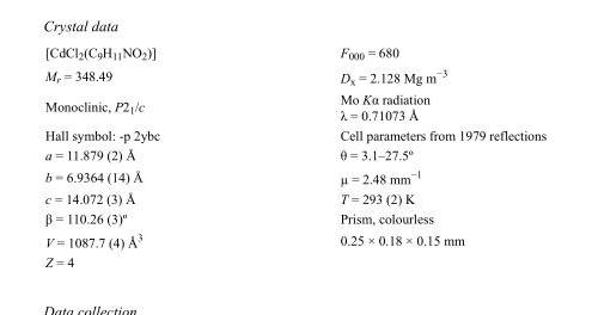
<table><tbody><tr><td>[CdCl<sub>2</sub>(C<sub>9</sub>H<sub>11</sub>NO<sub>2</sub>)]</td><td>F<sub>000</sub> = 680</td></tr><tr><td>M<sub>r</sub> = 348.49</td><td>D<sub>x</sub> = 2.128 Mg m<sup>−3</sup></td></tr><tr><td>Monoclinic, P2<sub>1</sub>/c</td><td>Mo Kα radiation λ = 0.71073 Å</td></tr><tr><td>Hall symbol: -p 2ybc</td><td>Cell parameters from 1979 reflections</td></tr><tr><td>a = 11.879 (2) Å</td><td>θ = 3.1–27.5º</td></tr><tr><td>b = 6.9364 (14) Å</td><td>µ = 2.48 mm<sup>−1</sup></td></tr><tr><td>c = 14.072 (3) Å</td><td>T = 293 (2) K</td></tr><tr><td>β = 110.26 (3)º</td><td>Prism, colourless</td></tr><tr><td>V = 1087.7 (4) Å<sup>3</sup></td><td>0.25 × 0.18 × 0.15 mm</td></tr><tr><td>Z = 4</td><td></td></tr></tbody></table>